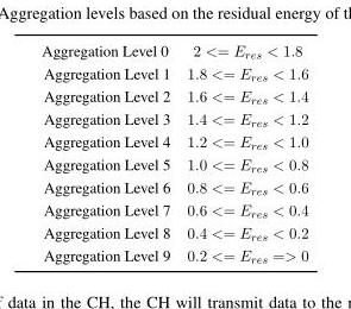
<table><tbody><tr><td>Aggregation Level 0</td><td>2 &lt;= E<sub>res</sub> &lt; 1.8</td></tr><tr><td>Aggregation Level 1</td><td>1.8 &lt;= E<sub>res</sub> &lt; 1.6</td></tr><tr><td>Aggregation Level 2</td><td>1.6 &lt;= E<sub>res</sub> &lt; 1.4</td></tr><tr><td>Aggregation Level 3</td><td>1.4 &lt;= E<sub>res</sub> &lt; 1.2</td></tr><tr><td>Aggregation Level 4</td><td>1.2 &lt;= E<sub>res</sub> &lt; 1.0</td></tr><tr><td>Aggregation Level 5</td><td>1.0 &lt;= E<sub>res</sub> &lt; 0.8</td></tr><tr><td>Aggregation Level 6</td><td>0.8 &lt;= E<sub>res</sub> &lt; 0.6</td></tr><tr><td>Aggregation Level 7</td><td>0.6 &lt;= E<sub>res</sub> &lt; 0.4</td></tr><tr><td>Aggregation Level 8</td><td>0.4 &lt;= E<sub>res</sub> &lt; 0.2</td></tr><tr><td>Aggregation Level 9</td><td>0.2 &lt;= E<sub>res</sub> =&gt; 0</td></tr></tbody></table>